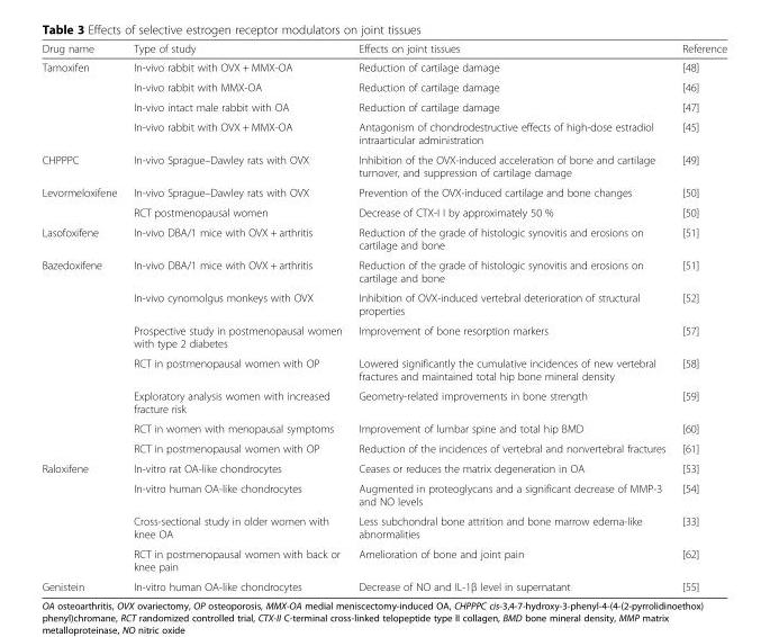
<table><thead><tr><td>Drug name</td><td>Type of study</td><td>Effects on joint tissues</td><td>Reference</td></tr></thead><tbody><tr><td rowspan="4">Tamoxifen</td><td>In-vivo rabbit with OVX + MMX-OA</td><td>Reduction of cartilage damage</td><td>[48]</td></tr><tr><td>In-vivo rabbit with MMX-OA</td><td>Reduction of cartilage damage</td><td>[46]</td></tr><tr><td>In-vivo intact male rabbit with OA</td><td>Reduction of cartilage damage</td><td>[47]</td></tr><tr><td>In-vivo rabbit with OVX + MMX-OA</td><td>Antagonism of chondrodestructive effects of high-dose estradiol intraarticular administration</td><td>[45]</td></tr><tr><td>CHPPPC</td><td>In-vivo Sprague–Dawley rats with OVX</td><td>Inhibition of the OVX-induced acceleration of bone and cartilage turnover, and suppression of cartilage damage</td><td>[49]</td></tr><tr><td rowspan="2">Levormeloxifene</td><td>In-vivo Sprague–Dawley rats with OVX</td><td>Prevention of the OVX-induced cartilage and bone changes</td><td>[50]</td></tr><tr><td>RCT postmenopausal women</td><td>Decrease of CTX-I I by approximately 50 %</td><td>[50]</td></tr><tr><td>Lasofoxifene</td><td>In-vivo DBA/1 mice with OVX + arthritis</td><td>Reduction of the grade of histologic synovitis and erosions on cartilage and bone</td><td>[51]</td></tr><tr><td rowspan="7">Bazedoxifene</td><td>In-vivo DBA/1 mice with OVX + arthritis</td><td>Reduction of the grade of histologic synovitis and erosions on cartilage and bone</td><td>[51]</td></tr><tr><td>In-vivo cynomolgus monkeys with OVX</td><td>Inhibition of OVX-induced vertebral deterioration of structural properties</td><td>[52]</td></tr><tr><td>Prospective study in postmenopausal women with type 2 diabetes</td><td>Improvement of bone resorption markers</td><td>[57]</td></tr><tr><td>RCT in postmenopausal women with OP</td><td>Lowered significantly the cumulative incidences of new vertebral fractures and maintained total hip bone mineral density</td><td>[58]</td></tr><tr><td>Exploratory analysis women with increased fracture risk</td><td>Geometry-related improvements in bone strength</td><td>[59]</td></tr><tr><td>RCT in women with menopausal symptoms</td><td>Improvement of lumbar spine and total hip BMD</td><td>[60]</td></tr><tr><td>RCT in postmenopausal women with OP</td><td>Reduction of the incidences of vertebral and nonvertebral fractures</td><td>[61]</td></tr><tr><td rowspan="4">Raloxifene</td><td>In-vitro rat OA-like chondrocytes</td><td>Ceases or reduces the matrix degeneration in OA</td><td>[53]</td></tr><tr><td>In-vitro human OA-like chondrocytes</td><td>Augmented in proteoglycans and a significant decrease of MMP-3 and NO levels</td><td>[54]</td></tr><tr><td>Cross-sectional study in older women with knee OA</td><td>Less subchondral bone attrition and bone marrow edema-like abnormalities</td><td>[33]</td></tr><tr><td>RCT in postmenopausal women with back or knee pain</td><td>Amelioration of bone and joint pain</td><td>[62]</td></tr><tr><td>Genistein</td><td>In-vitro human OA-like chondrocytes</td><td>Decrease of NO and IL-1β level in supernatant</td><td>[55]</td></tr></tbody></table>